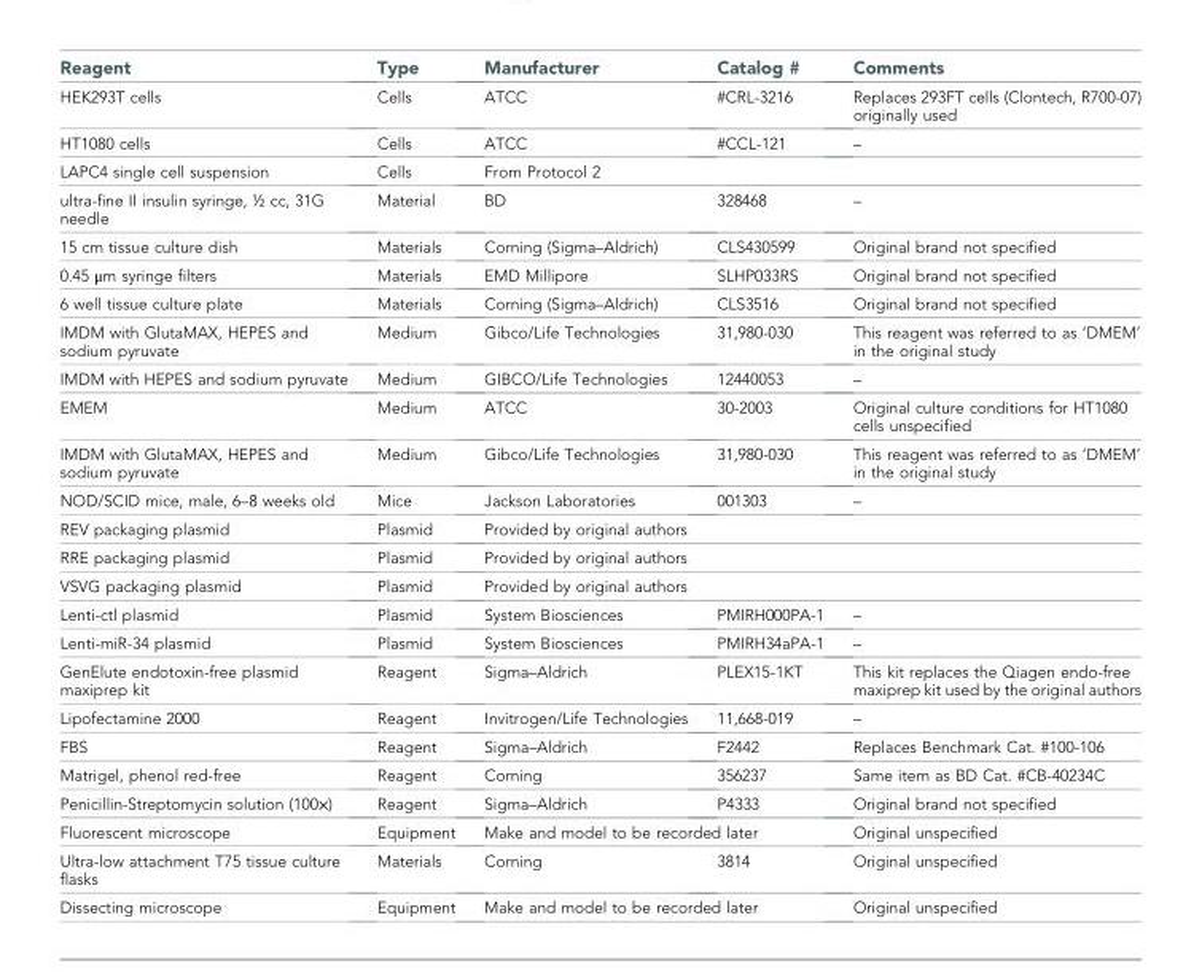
<table><thead><tr><td>Reagent</td><td>Type</td><td>Manufacturer</td><td>Catalog #</td><td>Comments</td></tr></thead><tbody><tr><td>HEK293T cells</td><td>Cells</td><td>ATCC</td><td>#CRL-3216</td><td>Replaces 293FT cells (Clontech, R700-07) originally used</td></tr><tr><td>HT1080 cells</td><td>Cells</td><td>ATCC</td><td>#CCL-121</td><td>–</td></tr><tr><td>LAPC4 single cell suspension</td><td>Cells</td><td colspan="3">From Protocol 2</td></tr><tr><td>ultra-fine II insulin syringe, ½ cc, 31G needle</td><td>Material</td><td>BD</td><td>328468</td><td>–</td></tr><tr><td>15 cm tissue culture dish</td><td>Materials</td><td>Corning (Sigma–Aldrich)</td><td>CLS430599</td><td>Original brand not specified</td></tr><tr><td>0.45 μm syringe filters</td><td>Materials</td><td>EMD Millipore</td><td>SLHP033RS</td><td>Original brand not specified</td></tr><tr><td>6 well tissue culture plate</td><td>Materials</td><td>Corning (Sigma–Aldrich)</td><td>CLS3516</td><td>Original brand not specified</td></tr><tr><td>IMDM with GlutaMAX, HEPES and sodium pyruvate</td><td>Medium</td><td>Gibco/Life Technologies</td><td>31,980-030</td><td>This reagent was referred to as ‘DMEM’ in the original study</td></tr><tr><td>IMDM with HEPES and sodium pyruvate</td><td>Medium</td><td>GIBCO/Life Technologies</td><td>12440053</td><td>–</td></tr><tr><td>EMEM</td><td>Medium</td><td>ATCC</td><td>30-2003</td><td>Original culture conditions for HT1080 cells unspecified</td></tr><tr><td>IMDM with GlutaMAX, HEPES and sodium pyruvate</td><td>Medium</td><td>Gibco/Life Technologies</td><td>31,980-030</td><td>This reagent was referred to as ‘DMEM’ in the original study</td></tr><tr><td>NOD/SCID mice, male, 6–8 weeks old</td><td>Mice</td><td>Jackson Laboratories</td><td>001303</td><td>–</td></tr><tr><td>REV packaging plasmid</td><td>Plasmid</td><td colspan="3">Provided by original authors</td></tr><tr><td>RRE packaging plasmid</td><td>Plasmid</td><td colspan="3">Provided by original authors</td></tr><tr><td>VSVG packaging plasmid</td><td>Plasmid</td><td colspan="3">Provided by original authors</td></tr><tr><td>Lenti-ctl plasmid</td><td>Plasmid</td><td>System Biosciences</td><td>PMIRH000PA-1</td><td>–</td></tr><tr><td>Lenti-miR-34 plasmid</td><td>Plasmid</td><td>System Biosciences</td><td>PMIRH34aPA-1</td><td>–</td></tr><tr><td>GenElute endotoxin-free plasmid maxiprep kit</td><td>Reagent</td><td>Sigma–Aldrich</td><td>PLEX15-1KT</td><td>This kit replaces the Qiagen endo-free maxiprep kit used by the original authors</td></tr><tr><td>Lipofectamine 2000</td><td>Reagent</td><td>Invitrogen/Life Technologies</td><td>11,668-019</td><td>–</td></tr><tr><td>FBS</td><td>Reagent</td><td>Sigma–Aldrich</td><td>F2442</td><td>Replaces Benchmark Cat. #100-106</td></tr><tr><td>Matrigel, phenol red-free</td><td>Reagent</td><td>Corning</td><td>356237</td><td>Same item as BD Cat. #CB-40234C</td></tr><tr><td>Penicillin-Streptomycin solution (100×)</td><td>Reagent</td><td>Sigma–Aldrich</td><td>P4333</td><td>Original brand not specified</td></tr><tr><td>Fluorescent microscope</td><td>Equipment</td><td colspan="2">Make and model to be recorded later</td><td>Original unspecified</td></tr><tr><td>Ultra-low attachment T75 tissue culture flasks</td><td>Materials</td><td>Corning</td><td>3814</td><td>Original unspecified</td></tr><tr><td>Dissecting microscope</td><td>Equipment</td><td colspan="2">Make and model to be recorded later</td><td>Original unspecified</td></tr></tbody></table>